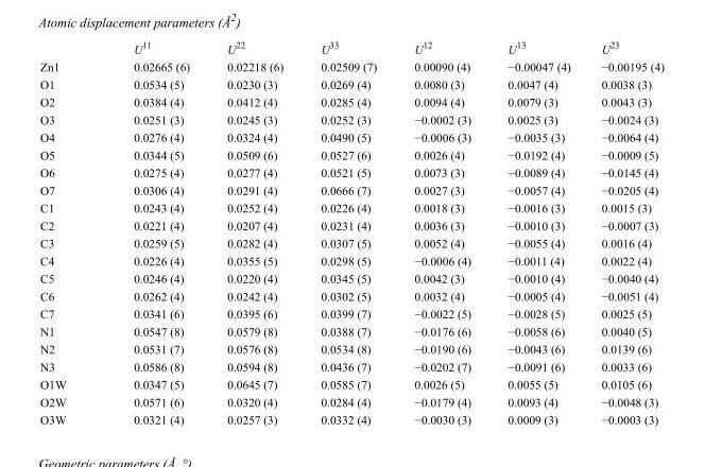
<table><thead><tr><td></td><td>U<sup>11</sup></td><td>U<sup>22</sup></td><td>U<sup>33</sup></td><td>U<sup>12</sup></td><td>U<sup>13</sup></td><td>U<sup>23</sup></td></tr></thead><tbody><tr><td>Zn1</td><td>0.02665 (6)</td><td>0.02218 (6)</td><td>0.02509 (7)</td><td>0.00090 (4)</td><td>−0.00047 (4)</td><td>−0.00195 (4)</td></tr><tr><td>O1</td><td>0.0534 (5)</td><td>0.0230 (3)</td><td>0.0269 (4)</td><td>0.0080 (3)</td><td>0.0047 (4)</td><td>0.0038 (3)</td></tr><tr><td>O2</td><td>0.0384 (4)</td><td>0.0412 (4)</td><td>0.0285 (4)</td><td>0.0094 (4)</td><td>0.0079 (3)</td><td>0.0043 (3)</td></tr><tr><td>O3</td><td>0.0251 (3)</td><td>0.0245 (3)</td><td>0.0252 (3)</td><td>−0.0002 (3)</td><td>0.0025 (3)</td><td>−0.0024 (3)</td></tr><tr><td>O4</td><td>0.0276 (4)</td><td>0.0324 (4)</td><td>0.0490 (5)</td><td>−0.0006 (3)</td><td>−0.0035 (3)</td><td>−0.0064 (4)</td></tr><tr><td>O5</td><td>0.0344 (5)</td><td>0.0509 (6)</td><td>0.0527 (6)</td><td>0.0026 (4)</td><td>−0.0192 (4)</td><td>−0.0009 (5)</td></tr><tr><td>O6</td><td>0.0275 (4)</td><td>0.0277 (4)</td><td>0.0521 (5)</td><td>0.0073 (3)</td><td>−0.0089 (4)</td><td>−0.0145 (4)</td></tr><tr><td>O7</td><td>0.0306 (4)</td><td>0.0291 (4)</td><td>0.0666 (7)</td><td>0.0027 (3)</td><td>−0.0057 (4)</td><td>−0.0205 (4)</td></tr><tr><td>C1</td><td>0.0243 (4)</td><td>0.0252 (4)</td><td>0.0226 (4)</td><td>0.0018 (3)</td><td>−0.0016 (3)</td><td>0.0015 (3)</td></tr><tr><td>C2</td><td>0.0221 (4)</td><td>0.0207 (4)</td><td>0.0231 (4)</td><td>0.0036 (3)</td><td>−0.0010 (3)</td><td>−0.0007 (3)</td></tr><tr><td>C3</td><td>0.0259 (5)</td><td>0.0282 (4)</td><td>0.0307 (5)</td><td>0.0052 (4)</td><td>−0.0055 (4)</td><td>0.0016 (4)</td></tr><tr><td>C4</td><td>0.0226 (4)</td><td>0.0355 (5)</td><td>0.0298 (5)</td><td>−0.0006 (4)</td><td>−0.0011 (4)</td><td>0.0022 (4)</td></tr><tr><td>C5</td><td>0.0246 (4)</td><td>0.0220 (4)</td><td>0.0345 (5)</td><td>0.0042 (3)</td><td>−0.0010 (4)</td><td>−0.0040 (4)</td></tr><tr><td>C6</td><td>0.0262 (4)</td><td>0.0242 (4)</td><td>0.0302 (5)</td><td>0.0032 (4)</td><td>−0.0005 (4)</td><td>−0.0051 (4)</td></tr><tr><td>C7</td><td>0.0341 (6)</td><td>0.0395 (6)</td><td>0.0399 (7)</td><td>−0.0022 (5)</td><td>−0.0028 (5)</td><td>0.0025 (5)</td></tr><tr><td>N1</td><td>0.0547 (8)</td><td>0.0579 (8)</td><td>0.0388 (7)</td><td>−0.0176 (6)</td><td>−0.0058 (6)</td><td>0.0040 (5)</td></tr><tr><td>N2</td><td>0.0531 (7)</td><td>0.0576 (8)</td><td>0.0534 (8)</td><td>−0.0190 (6)</td><td>−0.0043 (6)</td><td>0.0139 (6)</td></tr><tr><td>N3</td><td>0.0586 (8)</td><td>0.0594 (8)</td><td>0.0436 (7)</td><td>−0.0202 (7)</td><td>−0.0091 (6)</td><td>0.0033 (6)</td></tr><tr><td>O1W</td><td>0.0347 (5)</td><td>0.0645 (7)</td><td>0.0585 (7)</td><td>0.0026 (5)</td><td>0.0055 (5)</td><td>0.0105 (6)</td></tr><tr><td>O2W</td><td>0.0571 (6)</td><td>0.0320 (4)</td><td>0.0284 (4)</td><td>−0.0179 (4)</td><td>0.0093 (4)</td><td>−0.0048 (3)</td></tr><tr><td>O3W</td><td>0.0321 (4)</td><td>0.0257 (3)</td><td>0.0332 (4)</td><td>−0.0030 (3)</td><td>0.0009 (3)</td><td>−0.0003 (3)</td></tr></tbody></table>